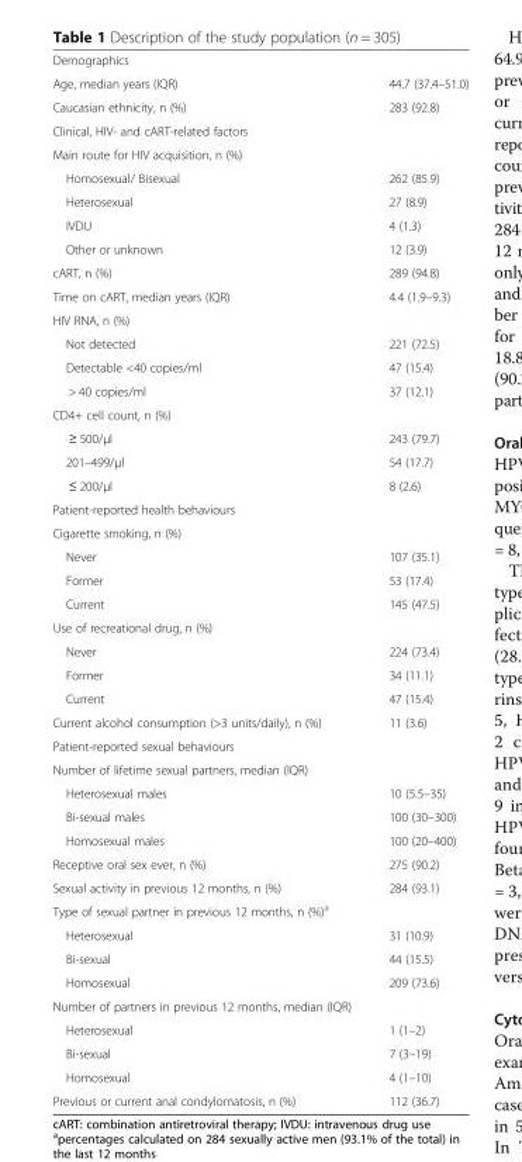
<table><tbody><tr><td colspan="2">Demographics</td></tr><tr><td>Age, median years (IQR)</td><td>44.7 (37.4–51.0)</td></tr><tr><td>Caucasian ethnicity, n (%)</td><td>283 (92.8)</td></tr><tr><td colspan="2">Clinical, HIV- and cART-related factors</td></tr><tr><td colspan="2">Main route for HIV acquisition, n (%)</td></tr><tr><td>Homosexual/ Bisexual</td><td>262 (85.9)</td></tr><tr><td>Heterosexual</td><td>27 (8.9)</td></tr><tr><td>IVDU</td><td>4 (1.3)</td></tr><tr><td>Other or unknown</td><td>12 (3.9)</td></tr><tr><td>cART, n (%)</td><td>289 (94.8)</td></tr><tr><td>Time on cART, median years (IQR)</td><td>4.4 (1.9–9.3)</td></tr><tr><td colspan="2">HIV RNA, n (%)</td></tr><tr><td>Not detected</td><td>221 (72.5)</td></tr><tr><td>Detectable &lt;40 copies/ml</td><td>47 (15.4)</td></tr><tr><td>&gt; 40 copies/ml</td><td>37 (12.1)</td></tr><tr><td colspan="2">CD4+ cell count, n (%)</td></tr><tr><td>≥ 500/μl</td><td>243 (79.7)</td></tr><tr><td>201–499/μl</td><td>54 (17.7)</td></tr><tr><td>≤ 200/μl</td><td>8 (2.6)</td></tr><tr><td colspan="2">Patient-reported health behaviours</td></tr><tr><td colspan="2">Cigarette smoking, n (%)</td></tr><tr><td>Never</td><td>107 (35.1)</td></tr><tr><td>Former</td><td>53 (17.4)</td></tr><tr><td>Current</td><td>145 (47.5)</td></tr><tr><td colspan="2">Use of recreational drug, n (%)</td></tr><tr><td>Never</td><td>224 (73.4)</td></tr><tr><td>Former</td><td>34 (11.1)</td></tr><tr><td>Current</td><td>47 (15.4)</td></tr><tr><td>Current alcohol consumption (&gt;3 units/daily), n (%)</td><td>11 (3.6)</td></tr><tr><td colspan="2">Patient-reported sexual behaviours</td></tr><tr><td colspan="2">Number of lifetime sexual partners, median (IQR)</td></tr><tr><td>Heterosexual males</td><td>10 (5.5–35)</td></tr><tr><td>Bi-sexual males</td><td>100 (30–300)</td></tr><tr><td>Homosexual males</td><td>100 (20–400)</td></tr><tr><td>Receptive oral sex ever, n (%)</td><td>275 (90.2)</td></tr><tr><td>Sexual activity in previous 12 months, n (%)</td><td>284 (93.1)</td></tr><tr><td colspan="2">Type of sexual partner in previous 12 months, n (%)<sup>a</sup></td></tr><tr><td>Heterosexual</td><td>31 (10.9)</td></tr><tr><td>Bi-sexual</td><td>44 (15.5)</td></tr><tr><td>Homosexual</td><td>209 (73.6)</td></tr><tr><td colspan="2">Number of partners in previous 12 months, median (IQR)</td></tr><tr><td>Heterosexual</td><td>1 (1–2)</td></tr><tr><td>Bi-sexual</td><td>7 (3–19)</td></tr><tr><td>Homosexual</td><td>4 (1–10)</td></tr><tr><td>Previous or current anal condylomatosis, n (%)</td><td>112 (36.7)</td></tr></tbody></table>